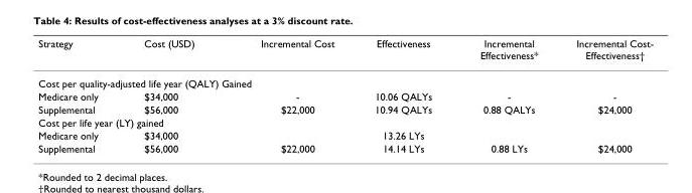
<table><thead><tr><td>Strategy</td><td>Cost (USD)</td><td>Incremental Cost</td><td>Effectiveness</td><td>Incremental Effectiveness*</td><td>Incremental Cost- Effectiveness†</td></tr></thead><tbody><tr><td colspan="6">Cost per quality-adjusted life year (QALY) Gained</td></tr><tr><td>Medicare only</td><td>$34,000</td><td>-</td><td>10.06 QALYs</td><td>-</td><td>-</td></tr><tr><td>Supplemental</td><td>$56,000</td><td>$22,000</td><td>10.94 QALYs</td><td>0.88 QALYs</td><td>$24,000</td></tr><tr><td colspan="6">Cost per life year (LY) gained</td></tr><tr><td>Medicare only</td><td>$34,000</td><td></td><td>13.26 LYs</td><td></td><td></td></tr><tr><td>Supplemental</td><td>$56,000</td><td>$22,000</td><td>14.14 LYs</td><td>0.88 LYs</td><td>$24,000</td></tr></tbody></table>